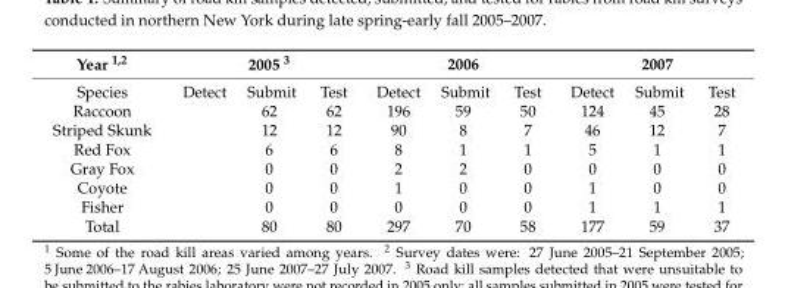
<table><thead><tr><td rowspan="2">Year <sup>1,2</sup> Species</td><td colspan="3">2005 <sup>3</sup></td><td colspan="3">2006</td><td colspan="3">2007</td></tr><tr><td>Detect</td><td>Submit</td><td>Test</td><td>Detect</td><td>Submit</td><td>Test</td><td>Detect</td><td>Submit</td><td>Test</td></tr></thead><tbody><tr><td>Raccoon</td><td></td><td>62</td><td>62</td><td>196</td><td>59</td><td>50</td><td>124</td><td>45</td><td>28</td></tr><tr><td>Striped Skunk</td><td></td><td>12</td><td>12</td><td>90</td><td>8</td><td>7</td><td>46</td><td>12</td><td>7</td></tr><tr><td>Red Fox</td><td></td><td>6</td><td>6</td><td>8</td><td>1</td><td>1</td><td>5</td><td>1</td><td>1</td></tr><tr><td>Gray Fox</td><td></td><td>0</td><td>0</td><td>2</td><td>2</td><td>0</td><td>0</td><td>0</td><td>0</td></tr><tr><td>Coyote</td><td></td><td>0</td><td>0</td><td>1</td><td>0</td><td>0</td><td>1</td><td>0</td><td>0</td></tr><tr><td>Fisher</td><td></td><td>0</td><td>0</td><td>0</td><td>0</td><td>0</td><td>1</td><td>1</td><td>1</td></tr><tr><td>Total</td><td></td><td>80</td><td>80</td><td>297</td><td>70</td><td>58</td><td>177</td><td>59</td><td>37</td></tr></tbody></table>